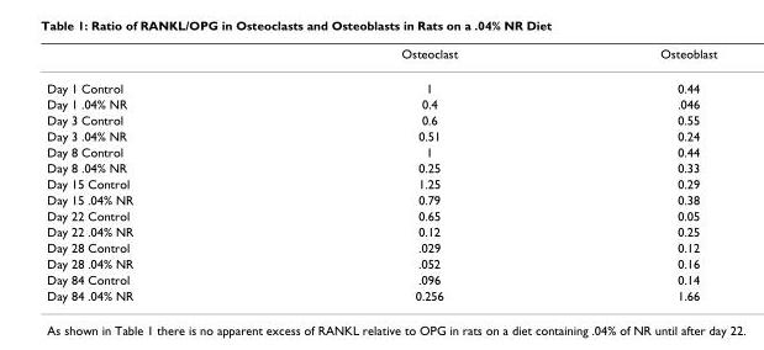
<table><thead><tr><td></td><td>Osteoclast</td><td>Osteoblast</td></tr></thead><tbody><tr><td>Day 1 Control</td><td>1</td><td>0.44</td></tr><tr><td>Day 1 .04% NR</td><td>0.4</td><td>.046</td></tr><tr><td>Day 3 Control</td><td>0.6</td><td>0.55</td></tr><tr><td>Day 3 .04% NR</td><td>0.51</td><td>0.24</td></tr><tr><td>Day 8 Control</td><td>1</td><td>0.44</td></tr><tr><td>Day 8 .04% NR</td><td>0.25</td><td>0.33</td></tr><tr><td>Day 15 Control</td><td>1.25</td><td>0.29</td></tr><tr><td>Day 15 .04% NR</td><td>0.79</td><td>0.38</td></tr><tr><td>Day 22 Control</td><td>0.65</td><td>0.05</td></tr><tr><td>Day 22 .04% NR</td><td>0.12</td><td>0.25</td></tr><tr><td>Day 28 Control</td><td>.029</td><td>0.12</td></tr><tr><td>Day 28 .04% NR</td><td>.052</td><td>0.16</td></tr><tr><td>Day 84 Control</td><td>.096</td><td>0.14</td></tr><tr><td>Day 84 .04% NR</td><td>0.256</td><td>1.66</td></tr></tbody></table>